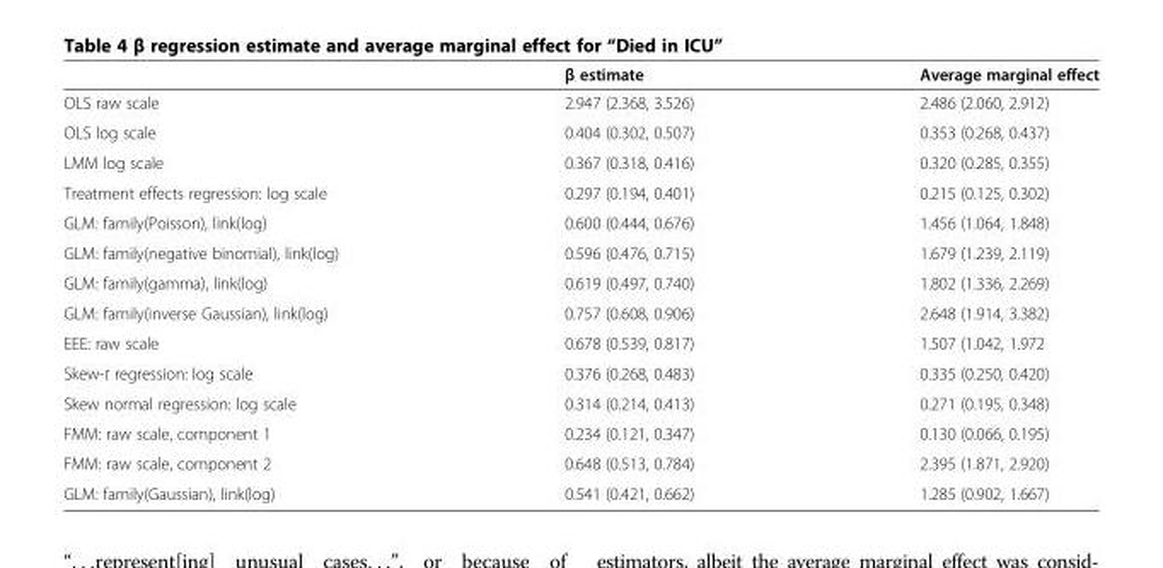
<table><thead><tr><td></td><td>β estimate</td><td>Average marginal effect</td></tr></thead><tbody><tr><td>OLS raw scale</td><td>2.947 (2.368, 3.526)</td><td>2.486 (2.060, 2.912)</td></tr><tr><td>OLS log scale</td><td>0.404 (0.302, 0.507)</td><td>0.353 (0.268, 0.437)</td></tr><tr><td>LMM log scale</td><td>0.367 (0.318, 0.416)</td><td>0.320 (0.285, 0.355)</td></tr><tr><td>Treatment effects regression: log scale</td><td>0.297 (0.194, 0.401)</td><td>0.215 (0.125, 0.302)</td></tr><tr><td>GLM: family(Poisson), link(log)</td><td>0.600 (0.444, 0.676)</td><td>1.456 (1.064, 1.848)</td></tr><tr><td>GLM: family(negative binomial), link(log)</td><td>0.596 (0.476, 0.715)</td><td>1.679 (1.239, 2.119)</td></tr><tr><td>GLM: family(gamma), link(log)</td><td>0.619 (0.497, 0.740)</td><td>1.802 (1.336, 2.269)</td></tr><tr><td>GLM: family(inverse Gaussian), link(log)</td><td>0.757 (0.608, 0.906)</td><td>2.648 (1.914, 3.382)</td></tr><tr><td>EEE: raw scale</td><td>0.678 (0.539, 0.817)</td><td>1.507 (1.042, 1.972</td></tr><tr><td>Skew-t regression: log scale</td><td>0.376 (0.268, 0.483)</td><td>0.335 (0.250, 0.420)</td></tr><tr><td>Skew normal regression: log scale</td><td>0.314 (0.214, 0.413)</td><td>0.271 (0.195, 0.348)</td></tr><tr><td>FMM: raw scale, component 1</td><td>0.234 (0.121, 0.347)</td><td>0.130 (0.066, 0.195)</td></tr><tr><td>FMM: raw scale, component 2</td><td>0.648 (0.513, 0.784)</td><td>2.395 (1.871, 2.920)</td></tr><tr><td>GLM: family(Gaussian), link(log)</td><td>0.541 (0.421, 0.662)</td><td>1.285 (0.902, 1.667)</td></tr></tbody></table>